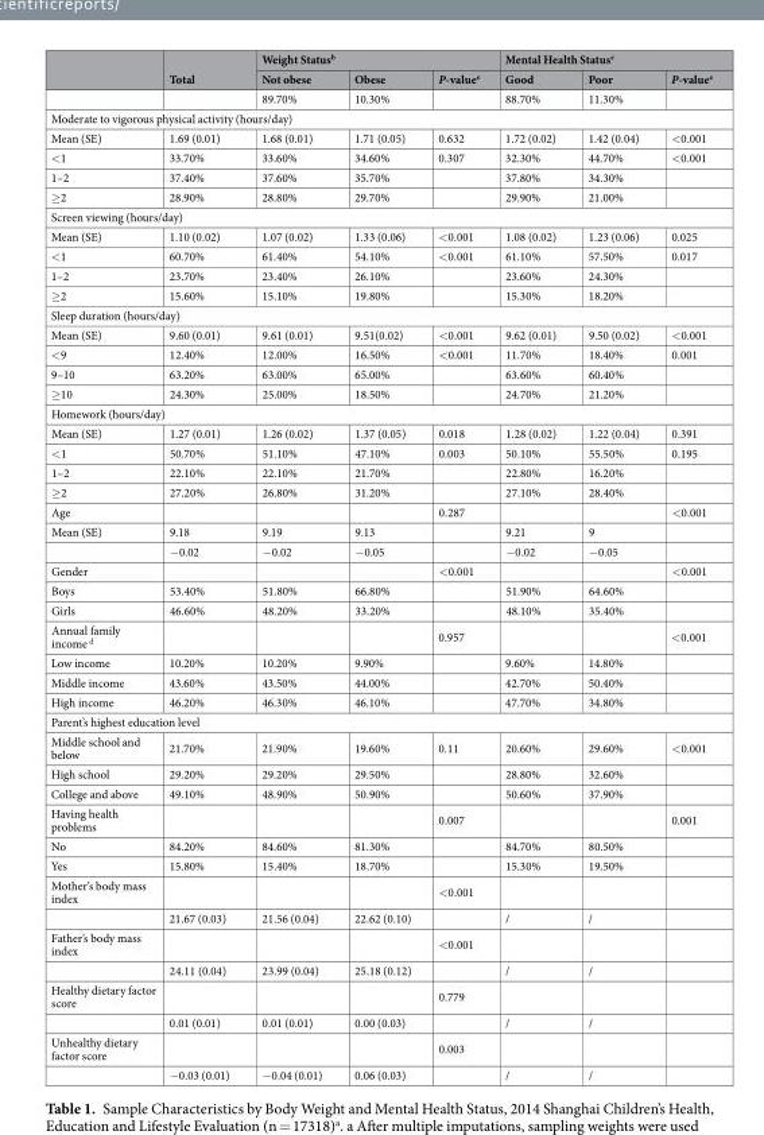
<table><thead><tr><td rowspan="2"></td><td rowspan="2">Total</td><td colspan="3">Weight Status<sup>b</sup></td><td colspan="3">Mental Health Status<sup>e</sup></td></tr><tr><td>Not obese</td><td>Obese</td><td>P-value<sup>e</sup></td><td>Good</td><td>Poor</td><td>P-value<sup>e</sup></td></tr></thead><tbody><tr><td></td><td></td><td>89.70%</td><td>10.30%</td><td></td><td>88.70%</td><td>11.30%</td><td></td></tr><tr><td colspan="8">Moderate to vigorous physical activity (hours/day)</td></tr><tr><td>Mean (SE)</td><td>1.69 (0.01)</td><td>1.68 (0.01)</td><td>1.71 (0.05)</td><td>0.632</td><td>1.72 (0.02)</td><td>1.42 (0.04)</td><td>&lt;0.001</td></tr><tr><td>&lt;1</td><td>33.70%</td><td>33.60%</td><td>34.60%</td><td>0.307</td><td>32.30%</td><td>44.70%</td><td>&lt;0.001</td></tr><tr><td>1–2</td><td>37.40%</td><td>37.60%</td><td>35.70%</td><td></td><td>37.80%</td><td>34.30%</td><td></td></tr><tr><td>≥2</td><td>28.90%</td><td>28.80%</td><td>29.70%</td><td></td><td>29.90%</td><td>21.00%</td><td></td></tr><tr><td colspan="8">Screen viewing (hours/day)</td></tr><tr><td>Mean (SE)</td><td>1.10 (0.02)</td><td>1.07 (0.02)</td><td>1.33 (0.06)</td><td>&lt;0.001</td><td>1.08 (0.02)</td><td>1.23 (0.06)</td><td>0.025</td></tr><tr><td>&lt;1</td><td>60.70%</td><td>61.40%</td><td>54.10%</td><td>&lt;0.001</td><td>61.10%</td><td>57.50%</td><td>0.017</td></tr><tr><td>1–2</td><td>23.70%</td><td>23.40%</td><td>26.10%</td><td></td><td>23.60%</td><td>24.30%</td><td></td></tr><tr><td>≥2</td><td>15.60%</td><td>15.10%</td><td>19.80%</td><td></td><td>15.30%</td><td>18.20%</td><td></td></tr><tr><td colspan="8">Sleep duration (hours/day)</td></tr><tr><td>Mean (SE)</td><td>9.60 (0.01)</td><td>9.61 (0.01)</td><td>9.51(0.02)</td><td>&lt;0.001</td><td>9.62 (0.01)</td><td>9.50 (0.02)</td><td>&lt;0.001</td></tr><tr><td>&lt;9</td><td>12.40%</td><td>12.00%</td><td>16.50%</td><td>&lt;0.001</td><td>11.70%</td><td>18.40%</td><td>0.001</td></tr><tr><td>9–10</td><td>63.20%</td><td>63.00%</td><td>65.00%</td><td></td><td>63.60%</td><td>60.40%</td><td></td></tr><tr><td>≥10</td><td>24.30%</td><td>25.00%</td><td>18.50%</td><td></td><td>24.70%</td><td>21.20%</td><td></td></tr><tr><td colspan="8">Homework (hours/day)</td></tr><tr><td>Mean (SE)</td><td>1.27 (0.01)</td><td>1.26 (0.02)</td><td>1.37 (0.05)</td><td>0.018</td><td>1.28 (0.02)</td><td>1.22 (0.04)</td><td>0.391</td></tr><tr><td>&lt;1</td><td>50.70%</td><td>51.10%</td><td>47.10%</td><td>0.003</td><td>50.10%</td><td>55.50%</td><td>0.195</td></tr><tr><td>1–2</td><td>22.10%</td><td>22.10%</td><td>21.70%</td><td></td><td>22.80%</td><td>16.20%</td><td></td></tr><tr><td>≥2</td><td>27.20%</td><td>26.80%</td><td>31.20%</td><td></td><td>27.10%</td><td>28.40%</td><td></td></tr><tr><td>Age</td><td></td><td></td><td></td><td>0.287</td><td></td><td></td><td>&lt;0.001</td></tr><tr><td rowspan="2">Mean (SE)</td><td>9.18</td><td>9.19</td><td>9.13</td><td></td><td>9.21</td><td>9</td><td></td></tr><tr><td>-0.02</td><td>-0.02</td><td>-0.05</td><td></td><td>-0.02</td><td>-0.05</td><td></td></tr><tr><td>Gender</td><td></td><td></td><td></td><td>&lt;0.001</td><td></td><td></td><td>&lt;0.001</td></tr><tr><td>Boys</td><td>53.40%</td><td>51.80%</td><td>66.80%</td><td></td><td>51.90%</td><td>64.60%</td><td></td></tr><tr><td>Girls</td><td>46.60%</td><td>48.20%</td><td>33.20%</td><td></td><td>48.10%</td><td>35.40%</td><td></td></tr><tr><td>Annual family income <sup>d</sup></td><td></td><td></td><td></td><td>0.957</td><td></td><td></td><td>&lt;0.001</td></tr><tr><td>Low income</td><td>10.20%</td><td>10.20%</td><td>9.90%</td><td></td><td>9.60%</td><td>14.80%</td><td></td></tr><tr><td>Middle income</td><td>43.60%</td><td>43.50%</td><td>44.00%</td><td></td><td>42.70%</td><td>50.40%</td><td></td></tr><tr><td>High income</td><td>46.20%</td><td>46.30%</td><td>46.10%</td><td></td><td>47.70%</td><td>34.80%</td><td></td></tr><tr><td colspan="8">Parent’s highest education level</td></tr><tr><td>Middle school and below</td><td>21.70%</td><td>21.90%</td><td>19.60%</td><td>0.11</td><td>20.60%</td><td>29.60%</td><td>&lt;0.001</td></tr><tr><td>High school</td><td>29.20%</td><td>29.20%</td><td>29.50%</td><td></td><td>28.80%</td><td>32.60%</td><td></td></tr><tr><td>College and above</td><td>49.10%</td><td>48.90%</td><td>50.90%</td><td></td><td>50.60%</td><td>37.90%</td><td></td></tr><tr><td>Having health problems</td><td></td><td></td><td></td><td>0.007</td><td></td><td></td><td>0.001</td></tr><tr><td>No</td><td>84.20%</td><td>84.60%</td><td>81.30%</td><td></td><td>84.70%</td><td>80.50%</td><td></td></tr><tr><td>Yes</td><td>15.80%</td><td>15.40%</td><td>18.70%</td><td></td><td>15.30%</td><td>19.50%</td><td></td></tr><tr><td rowspan="2">Mother’s body mass index</td><td></td><td></td><td></td><td>&lt;0.001</td><td></td><td></td><td></td></tr><tr><td>21.67 (0.03)</td><td>21.56 (0.04)</td><td>22.62 (0.10)</td><td></td><td>/</td><td>/</td><td></td></tr><tr><td rowspan="2">Father’s body mass index</td><td></td><td></td><td></td><td>&lt;0.001</td><td></td><td></td><td></td></tr><tr><td>24.11 (0.04)</td><td>23.99 (0.04)</td><td>25.18 (0.12)</td><td></td><td>/</td><td>/</td><td></td></tr><tr><td rowspan="2">Healthy dietary factor score</td><td></td><td></td><td></td><td>0.779</td><td></td><td></td><td></td></tr><tr><td>0.01 (0.01)</td><td>0.01 (0.01)</td><td>0.00 (0.03)</td><td></td><td>/</td><td>/</td><td></td></tr><tr><td rowspan="2">Unhealthy dietary factor score</td><td></td><td></td><td></td><td>0.003</td><td></td><td></td><td></td></tr><tr><td>-0.03 (0.01)</td><td>-0.04 (0.01)</td><td>0.06 (0.03)</td><td></td><td>/</td><td>/</td><td></td></tr></tbody></table>